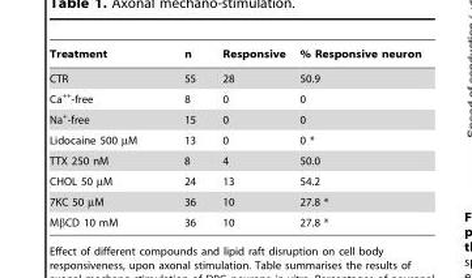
<table><thead><tr><td>Treatment</td><td>n</td><td>Responsive</td><td>% Responsive neuron</td></tr></thead><tbody><tr><td>CTR</td><td>55</td><td>28</td><td>50.9</td></tr><tr><td>Ca<sup>++</sup>-free</td><td>8</td><td>0</td><td>0</td></tr><tr><td>Na<sup>+</sup>-free</td><td>15</td><td>0</td><td>0</td></tr><tr><td>Lidocaine 500 µM</td><td>13</td><td>0</td><td>0 *</td></tr><tr><td>TTX 250 nM</td><td>8</td><td>4</td><td>50.0</td></tr><tr><td>CHOL 50 µM</td><td>24</td><td>13</td><td>54.2</td></tr><tr><td>7KC 50 µM</td><td>36</td><td>10</td><td>27.8 *</td></tr><tr><td>MβCD 10 mM</td><td>36</td><td>10</td><td>27.8 *</td></tr></tbody></table>